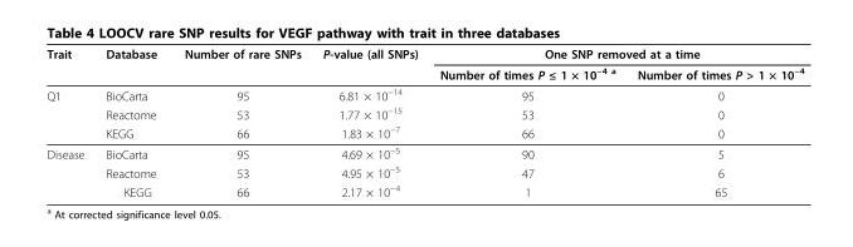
<table><thead><tr><td rowspan="2">Trait</td><td rowspan="2">Database</td><td rowspan="2">Number of rare SNPs</td><td rowspan="2">P-value (all SNPs)</td><td colspan="2">One SNP removed at a time</td></tr><tr><td>Number of times P ≤ 1 × 10<sup>−4 a</sup></td><td>Number of times P &gt; 1 × 10<sup>−4</sup></td></tr></thead><tbody><tr><td rowspan="3">Q1</td><td>BioCarta</td><td>95</td><td>6.81 × 10<sup>−14</sup></td><td>95</td><td>0</td></tr><tr><td>Reactome</td><td>53</td><td>1.77 × 10<sup>−15</sup></td><td>53</td><td>0</td></tr><tr><td>KEGG</td><td>66</td><td>1.83 × 10<sup>−7</sup></td><td>66</td><td>0</td></tr><tr><td rowspan="3">Disease</td><td>BioCarta</td><td>95</td><td>4.69 × 10<sup>−5</sup></td><td>90</td><td>5</td></tr><tr><td>Reactome</td><td>53</td><td>4.95 × 10<sup>−5</sup></td><td>47</td><td>6</td></tr><tr><td>KEGG</td><td>66</td><td>2.17 × 10<sup>−4</sup></td><td>1</td><td>65</td></tr></tbody></table>